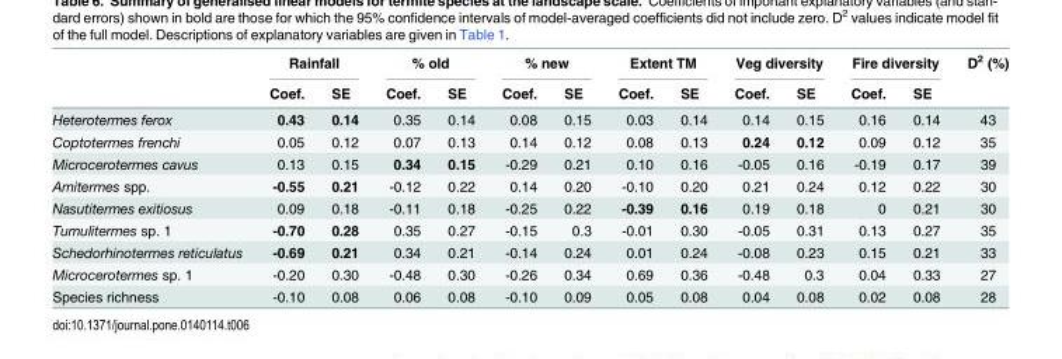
<table><thead><tr><td rowspan="2"></td><td colspan="2">Rainfall</td><td colspan="2">% old</td><td colspan="2">% new</td><td colspan="2">Extent TM</td><td colspan="2">Veg diversity</td><td colspan="2">Fire diversity</td><td rowspan="2">D<sup>2</sup> (%)</td></tr><tr><td>Coef.</td><td>SE</td><td>Coef.</td><td>SE</td><td>Coef.</td><td>SE</td><td>Coef.</td><td>SE</td><td>Coef.</td><td>SE</td><td>Coef.</td><td>SE</td></tr></thead><tbody><tr><td>Heterotermes ferox</td><td>0.43</td><td>0.14</td><td>0.35</td><td>0.14</td><td>0.08</td><td>0.15</td><td>0.03</td><td>0.14</td><td>0.14</td><td>0.15</td><td>0.16</td><td>0.14</td><td>43</td></tr><tr><td>Coptotermes frenchi</td><td>0.05</td><td>0.12</td><td>0.07</td><td>0.13</td><td>0.14</td><td>0.12</td><td>0.08</td><td>0.13</td><td>0.24</td><td>0.12</td><td>0.09</td><td>0.12</td><td>35</td></tr><tr><td>Microcerotermes cavus</td><td>0.13</td><td>0.15</td><td>0.34</td><td>0.15</td><td>-0.29</td><td>0.21</td><td>0.10</td><td>0.16</td><td>-0.05</td><td>0.16</td><td>-0.19</td><td>0.17</td><td>39</td></tr><tr><td>Amitermes spp.</td><td>-0.55</td><td>0.21</td><td>-0.12</td><td>0.22</td><td>0.14</td><td>0.20</td><td>-0.10</td><td>0.20</td><td>0.21</td><td>0.24</td><td>0.12</td><td>0.22</td><td>30</td></tr><tr><td>Nasutitermes exitiosus</td><td>0.09</td><td>0.18</td><td>-0.11</td><td>0.18</td><td>-0.25</td><td>0.22</td><td>-0.39</td><td>0.16</td><td>0.19</td><td>0.18</td><td>0</td><td>0.21</td><td>30</td></tr><tr><td>Tumulitermes sp. 1</td><td>-0.70</td><td>0.28</td><td>0.35</td><td>0.27</td><td>-0.15</td><td>0.3</td><td>-0.01</td><td>0.30</td><td>-0.05</td><td>0.31</td><td>0.13</td><td>0.27</td><td>35</td></tr><tr><td>Schedorhinotermes reticulatus</td><td>-0.69</td><td>0.21</td><td>0.34</td><td>0.21</td><td>-0.14</td><td>0.24</td><td>0.01</td><td>0.24</td><td>-0.08</td><td>0.23</td><td>0.15</td><td>0.21</td><td>33</td></tr><tr><td>Microcerotermes sp. 1</td><td>-0.20</td><td>0.30</td><td>-0.48</td><td>0.30</td><td>-0.26</td><td>0.34</td><td>0.69</td><td>0.36</td><td>-0.48</td><td>0.3</td><td>0.04</td><td>0.33</td><td>27</td></tr><tr><td>Species richness</td><td>-0.10</td><td>0.08</td><td>0.06</td><td>0.08</td><td>-0.10</td><td>0.09</td><td>0.05</td><td>0.08</td><td>0.04</td><td>0.08</td><td>0.02</td><td>0.08</td><td>28</td></tr></tbody></table>